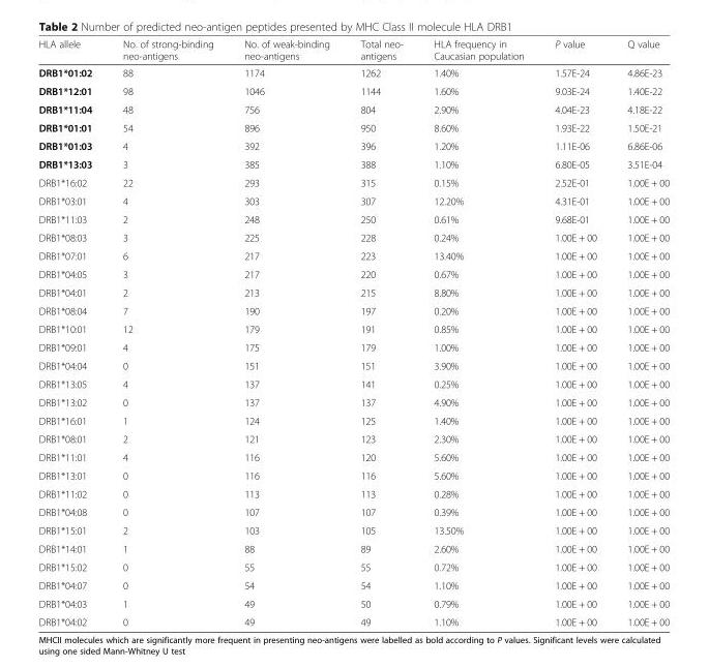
<table><thead><tr><td>HLA allele</td><td>No. of strong-binding neo-antigens</td><td>No. of weak-binding neo-antigens</td><td>Total neo- antigens</td><td>HLA frequency in Caucasian population</td><td>P value</td><td>Q value</td></tr></thead><tbody><tr><td>DRB1*01:02</td><td>88</td><td>1174</td><td>1262</td><td>1.40%</td><td>1.57E-24</td><td>4.86E-23</td></tr><tr><td>DRB1*12:01</td><td>98</td><td>1046</td><td>1144</td><td>1.60%</td><td>9.03E-24</td><td>1.40E-22</td></tr><tr><td>DRB1*11:04</td><td>48</td><td>756</td><td>804</td><td>2.90%</td><td>4.04E-23</td><td>4.18E-22</td></tr><tr><td>DRB1*01:01</td><td>54</td><td>896</td><td>950</td><td>8.60%</td><td>1.93E-22</td><td>1.50E-21</td></tr><tr><td>DRB1*01:03</td><td>4</td><td>392</td><td>396</td><td>1.20%</td><td>1.11E-06</td><td>6.86E-06</td></tr><tr><td>DRB1*13:03</td><td>3</td><td>385</td><td>388</td><td>1.10%</td><td>6.80E-05</td><td>3.51E-04</td></tr><tr><td>DRB1*16:02</td><td>22</td><td>293</td><td>315</td><td>0.15%</td><td>2.52E-01</td><td>1.00E + 00</td></tr><tr><td>DRB1*03:01</td><td>4</td><td>303</td><td>307</td><td>12.20%</td><td>4.31E-01</td><td>1.00E + 00</td></tr><tr><td>DRB1*11:03</td><td>2</td><td>248</td><td>250</td><td>0.61%</td><td>9.68E-01</td><td>1.00E + 00</td></tr><tr><td>DRB1*08:03</td><td>3</td><td>225</td><td>228</td><td>0.24%</td><td>1.00E + 00</td><td>1.00E + 00</td></tr><tr><td>DRB1*07:01</td><td>6</td><td>217</td><td>223</td><td>13.40%</td><td>1.00E + 00</td><td>1.00E + 00</td></tr><tr><td>DRB1*04:05</td><td>3</td><td>217</td><td>220</td><td>0.67%</td><td>1.00E + 00</td><td>1.00E + 00</td></tr><tr><td>DRB1*04:01</td><td>2</td><td>213</td><td>215</td><td>8.80%</td><td>1.00E + 00</td><td>1.00E + 00</td></tr><tr><td>DRB1*08:04</td><td>7</td><td>190</td><td>197</td><td>0.20%</td><td>1.00E + 00</td><td>1.00E + 00</td></tr><tr><td>DRB1*10:01</td><td>12</td><td>179</td><td>191</td><td>0.85%</td><td>1.00E + 00</td><td>1.00E + 00</td></tr><tr><td>DRB1*09:01</td><td>4</td><td>175</td><td>179</td><td>1.00%</td><td>1.00E + 00</td><td>1.00E + 00</td></tr><tr><td>DRB1*04:04</td><td>0</td><td>151</td><td>151</td><td>3.90%</td><td>1.00E + 00</td><td>1.00E + 00</td></tr><tr><td>DRB1*13:05</td><td>4</td><td>137</td><td>141</td><td>0.25%</td><td>1.00E + 00</td><td>1.00E + 00</td></tr><tr><td>DRB1*13:02</td><td>0</td><td>137</td><td>137</td><td>4.90%</td><td>1.00E + 00</td><td>1.00E + 00</td></tr><tr><td>DRB1*16:01</td><td>1</td><td>124</td><td>125</td><td>1.40%</td><td>1.00E + 00</td><td>1.00E + 00</td></tr><tr><td>DRB1*08:01</td><td>2</td><td>121</td><td>123</td><td>2.30%</td><td>1.00E + 00</td><td>1.00E + 00</td></tr><tr><td>DRB1*11:01</td><td>4</td><td>116</td><td>120</td><td>5.60%</td><td>1.00E + 00</td><td>1.00E + 00</td></tr><tr><td>DRB1*13:01</td><td>0</td><td>116</td><td>116</td><td>5.60%</td><td>1.00E + 00</td><td>1.00E + 00</td></tr><tr><td>DRB1*11:02</td><td>0</td><td>113</td><td>113</td><td>0.28%</td><td>1.00E + 00</td><td>1.00E + 00</td></tr><tr><td>DRB1*04:08</td><td>0</td><td>107</td><td>107</td><td>0.39%</td><td>1.00E + 00</td><td>1.00E + 00</td></tr><tr><td>DRB1*15:01</td><td>2</td><td>103</td><td>105</td><td>13.50%</td><td>1.00E + 00</td><td>1.00E + 00</td></tr><tr><td>DRB1*14:01</td><td>1</td><td>88</td><td>89</td><td>2.60%</td><td>1.00E + 00</td><td>1.00E + 00</td></tr><tr><td>DRB1*15:02</td><td>0</td><td>55</td><td>55</td><td>0.72%</td><td>1.00E + 00</td><td>1.00E + 00</td></tr><tr><td>DRB1*04:07</td><td>0</td><td>54</td><td>54</td><td>1.10%</td><td>1.00E + 00</td><td>1.00E + 00</td></tr><tr><td>DRB1*04:03</td><td>1</td><td>49</td><td>50</td><td>0.79%</td><td>1.00E + 00</td><td>1.00E + 00</td></tr><tr><td>DRB1*04:02</td><td>0</td><td>49</td><td>49</td><td>1.10%</td><td>1.00E + 00</td><td>1.00E + 00</td></tr></tbody></table>